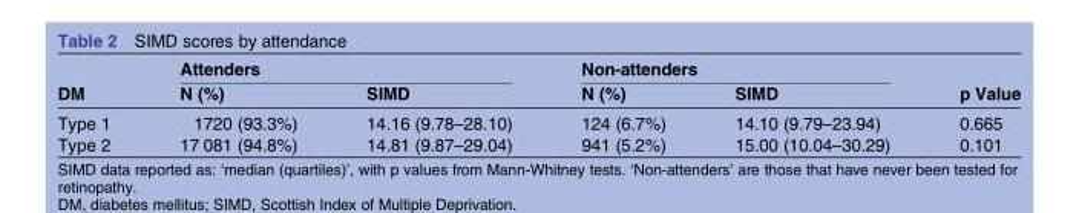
<table><thead><tr><td rowspan="2">DM</td><td colspan="2">Attenders</td><td colspan="2">Non-attenders</td><td rowspan="2">p Value</td></tr><tr><td>N (%)</td><td>SIMD</td><td>N (%)</td><td>SIMD</td></tr></thead><tbody><tr><td>Type 1</td><td>1720 (93.3%)</td><td>14.16 (9.78–28.10)</td><td>124 (6.7%)</td><td>14.10 (9.79–23.94)</td><td>0.665</td></tr><tr><td>Type 2</td><td>17 081 (94.8%)</td><td>14.81 (9.87–29.04)</td><td>941 (5.2%)</td><td>15.00 (10.04–30.29)</td><td>0.101</td></tr></tbody></table>